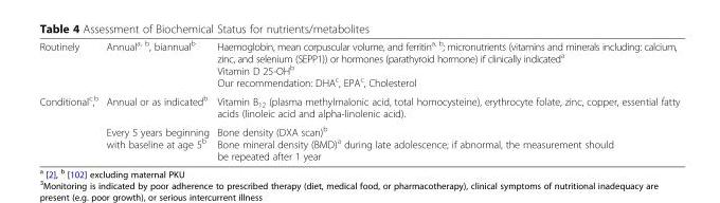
<table><tbody><tr><td>Routinely</td><td>Annual<sup>a, b</sup>, biannual<sup>b</sup></td><td>Haemoglobin, mean corpuscular volume, and ferritin<sup>a, b</sup>; micronutrients (vitamins and minerals including: calcium, zinc, and selenium (SEPP1)) or hormones (parathyroid hormone) if clinically indicated<sup>a</sup> Vitamin D 25-OH<sup>b</sup> Our recommendation: DHA<sup>c</sup>, EPA<sup>c</sup>, Cholesterol</td></tr><tr><td rowspan="2">Conditional<sup>c</sup>,<sup>b</sup></td><td>Annual or as indicated<sup>b</sup></td><td>Vitamin B<sub>12</sub> (plasma methylmalonic acid, total homocysteine), erythrocyte folate, zinc, copper, essential fatty acids (linoleic acid and alpha-linolenic acid).</td></tr><tr><td>Every 5 years beginning with baseline at age 5<sup>b</sup></td><td>Bone density (DXA scan)<sup>b</sup> Bone mineral density (BMD)<sup>a</sup> during late adolescence; if abnormal, the measurement should be repeated after 1 year</td></tr></tbody></table>